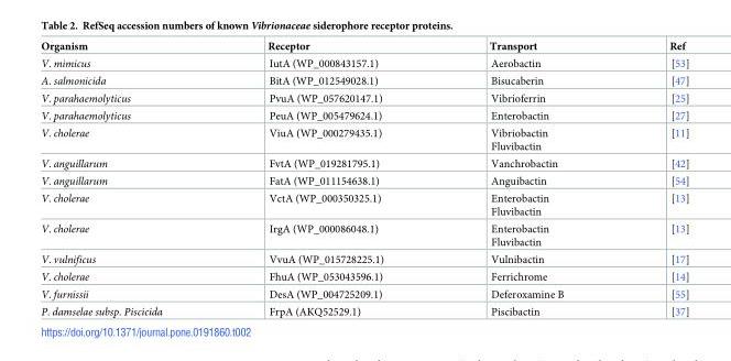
<table><thead><tr><td>Organism</td><td>Receptor</td><td>Transport</td><td>Ref</td></tr></thead><tbody><tr><td>V. mimicus</td><td>IutA (WP_000843157.1)</td><td>Aerobactin</td><td>[53]</td></tr><tr><td>A. salmonicida</td><td>BitA (WP_012549028.1)</td><td>Bisucaberin</td><td>[47]</td></tr><tr><td>V. parahaemolyticus</td><td>PvuA (WP_057620147.1)</td><td>Vibrioferrin</td><td>[25]</td></tr><tr><td>V. parahaemolyticus</td><td>PeuA (WP_005479624.1)</td><td>Enterobactin</td><td>[27]</td></tr><tr><td>V. cholerae</td><td>ViuA (WP_000279435.1)</td><td>Vibriobactin Fluvibactin</td><td>[11]</td></tr><tr><td>V. anguillarum</td><td>FvtA (WP_019281795.1)</td><td>Vanchrobactin</td><td>[42]</td></tr><tr><td>V. anguillarum</td><td>FatA (WP_011154638.1)</td><td>Anguibactin</td><td>[54]</td></tr><tr><td>V. cholerae</td><td>VctA (WP_000350325.1)</td><td>Enterobactin Fluvibactin</td><td>[13]</td></tr><tr><td>V. cholerae</td><td>IrgA (WP_000086048.1)</td><td>Enterobactin Fluvibactin</td><td>[13]</td></tr><tr><td>V. vulnificus</td><td>VvuA (WP_015728225.1)</td><td>Vulnibactin</td><td>[17]</td></tr><tr><td>V. cholerae</td><td>FhuA (WP_053043596.1)</td><td>Ferrichrome</td><td>[14]</td></tr><tr><td>V. furnissii</td><td>DesA (WP_004725209.1)</td><td>Deferoxamine B</td><td>[55]</td></tr><tr><td>P. damselae subsp. Piscicida</td><td>FrpA (AKQ52529.1)</td><td>Piscibactin</td><td>[37]</td></tr></tbody></table>